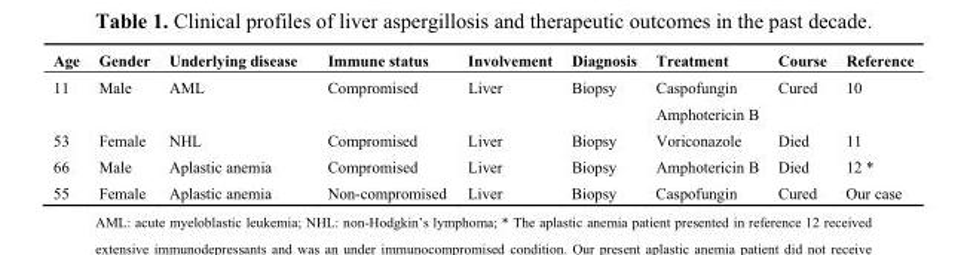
<table><thead><tr><td>Age</td><td>Gender</td><td>Underlying disease</td><td>Immune status</td><td>Involvement</td><td>Diagnosis</td><td>Treatment</td><td>Course</td><td>Reference</td></tr></thead><tbody><tr><td>11</td><td>Male</td><td>AML</td><td>Compromised</td><td>Liver</td><td>Biopsy</td><td>Caspofungin Amphotericin B</td><td>Cured</td><td>10</td></tr><tr><td>53</td><td>Female</td><td>NHL</td><td>Compromised</td><td>Liver</td><td>Biopsy</td><td>Voriconazole</td><td>Died</td><td>11</td></tr><tr><td>66</td><td>Male</td><td>Aplastic anemia</td><td>Compromised</td><td>Liver</td><td>Biopsy</td><td>Amphotericin B</td><td>Died</td><td>12 *</td></tr><tr><td>55</td><td>Female</td><td>Aplastic anemia</td><td>Non-compromised</td><td>Liver</td><td>Biopsy</td><td>Caspofungin</td><td>Cured</td><td>Our case</td></tr></tbody></table>